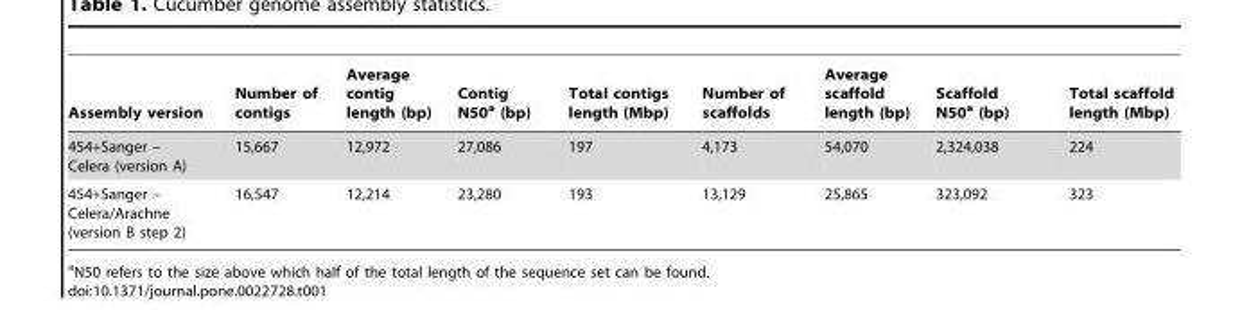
<table><thead><tr><td>Assembly version</td><td>Number of contigs</td><td>Average contig length (bp)</td><td>Contig N50<sup>a</sup> (bp)</td><td>Total contigs length (Mbp)</td><td>Number of scaffolds</td><td>Average scaffold length (bp)</td><td>Scaffold N50<sup>a</sup> (bp)</td><td>Total scaffold length (Mbp)</td></tr></thead><tbody><tr><td>454+Sanger – Celera (version A)</td><td>15,667</td><td>12,972</td><td>27,086</td><td>197</td><td>4,173</td><td>54,070</td><td>2,324,038</td><td>224</td></tr><tr><td>454+Sanger – Celera/Arachne (version B step 2)</td><td>16,547</td><td>12,214</td><td>23,280</td><td>193</td><td>13,129</td><td>25,865</td><td>323,092</td><td>323</td></tr></tbody></table>